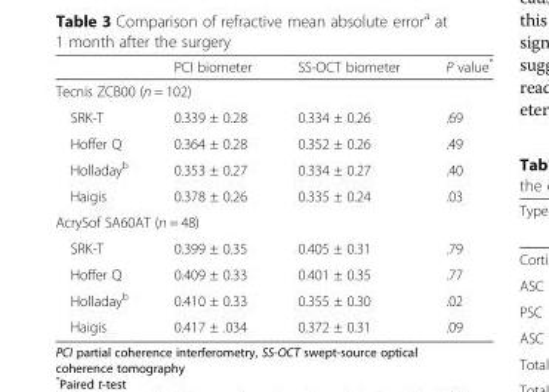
<table><thead><tr><td></td><td>PCI biometer</td><td>SS-OCT biometer</td><td>P value*</td></tr></thead><tbody><tr><td colspan="4">Tecnis ZCB00 (n = 102)</td></tr><tr><td>SRK-T</td><td>0.339 ± 0.28</td><td>0.334 ± 0.26</td><td>.69</td></tr><tr><td>Hoffer Q</td><td>0.364 ± 0.28</td><td>0.352 ± 0.26</td><td>.49</td></tr><tr><td>Holladay<sup>b</sup></td><td>0.353 ± 0.27</td><td>0.334 ± 0.27</td><td>.40</td></tr><tr><td>Haigis</td><td>0.378 ± 0.26</td><td>0.335 ± 0.24</td><td>.03</td></tr><tr><td colspan="4">AcrySof SA60AT (n = 48)</td></tr><tr><td>SRK-T</td><td>0.399 ± 0.35</td><td>0.405 ± 0.31</td><td>.79</td></tr><tr><td>Hoffer Q</td><td>0.409 ± 0.33</td><td>0.401 ± 0.35</td><td>.77</td></tr><tr><td>Holladay<sup>b</sup></td><td>0.410 ± 0.33</td><td>0.355 ± 0.30</td><td>.02</td></tr><tr><td>Haigis</td><td>0.417 ± .034</td><td>0.372 ± 0.31</td><td>.09</td></tr></tbody></table>